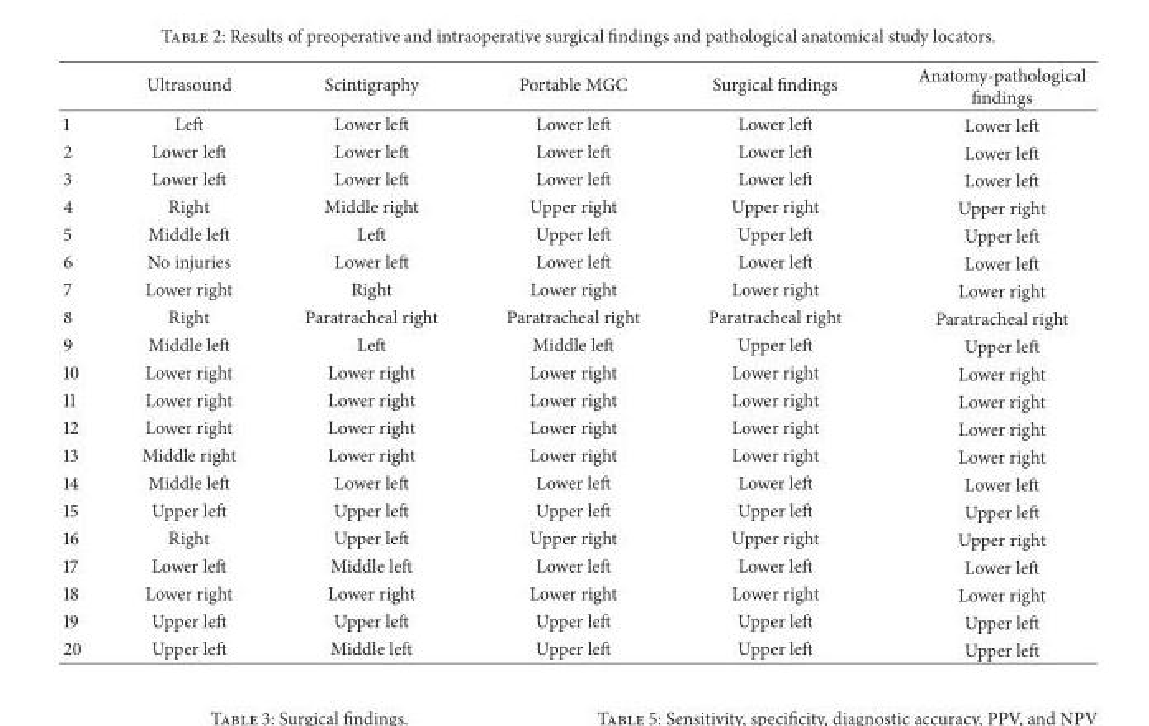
<table><thead><tr><td></td><td>Ultrasound</td><td>Scintigraphy</td><td>Portable MGC</td><td>Surgical findings</td><td>Anatomy-pathological findings</td></tr></thead><tbody><tr><td>1</td><td>Left</td><td>Lower left</td><td>Lower left</td><td>Lower left</td><td>Lower left</td></tr><tr><td>2</td><td>Lower left</td><td>Lower left</td><td>Lower left</td><td>Lower left</td><td>Lower left</td></tr><tr><td>3</td><td>Lower left</td><td>Lower left</td><td>Lower left</td><td>Lower left</td><td>Lower left</td></tr><tr><td>4</td><td>Right</td><td>Middle right</td><td>Upper right</td><td>Upper right</td><td>Upper right</td></tr><tr><td>5</td><td>Middle left</td><td>Left</td><td>Upper left</td><td>Upper left</td><td>Upper left</td></tr><tr><td>6</td><td>No injuries</td><td>Lower left</td><td>Lower left</td><td>Lower left</td><td>Lower left</td></tr><tr><td>7</td><td>Lower right</td><td>Right</td><td>Lower right</td><td>Lower right</td><td>Lower right</td></tr><tr><td>8</td><td>Right</td><td>Paratracheal right</td><td>Paratracheal right</td><td>Paratracheal right</td><td>Paratracheal right</td></tr><tr><td>9</td><td>Middle left</td><td>Left</td><td>Middle left</td><td>Upper left</td><td>Upper left</td></tr><tr><td>10</td><td>Lower right</td><td>Lower right</td><td>Lower right</td><td>Lower right</td><td>Lower right</td></tr><tr><td>11</td><td>Lower right</td><td>Lower right</td><td>Lower right</td><td>Lower right</td><td>Lower right</td></tr><tr><td>12</td><td>Lower right</td><td>Lower right</td><td>Lower right</td><td>Lower right</td><td>Lower right</td></tr><tr><td>13</td><td>Middle right</td><td>Lower right</td><td>Lower right</td><td>Lower right</td><td>Lower right</td></tr><tr><td>14</td><td>Middle left</td><td>Lower left</td><td>Lower left</td><td>Lower left</td><td>Lower left</td></tr><tr><td>15</td><td>Upper left</td><td>Upper left</td><td>Upper left</td><td>Upper left</td><td>Upper left</td></tr><tr><td>16</td><td>Right</td><td>Upper left</td><td>Upper right</td><td>Upper right</td><td>Upper right</td></tr><tr><td>17</td><td>Lower left</td><td>Middle left</td><td>Lower left</td><td>Lower left</td><td>Lower left</td></tr><tr><td>18</td><td>Lower right</td><td>Lower right</td><td>Lower right</td><td>Lower right</td><td>Lower right</td></tr><tr><td>19</td><td>Upper left</td><td>Upper left</td><td>Upper left</td><td>Upper left</td><td>Upper left</td></tr><tr><td>20</td><td>Upper left</td><td>Middle left</td><td>Upper left</td><td>Upper left</td><td>Upper left</td></tr></tbody></table>